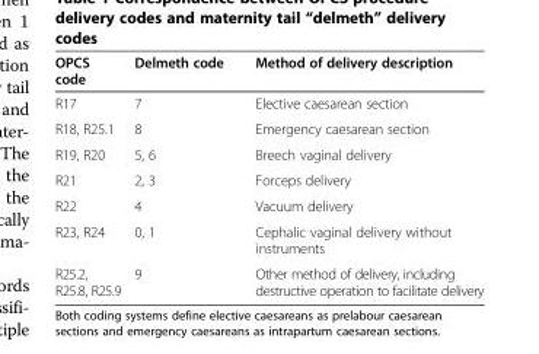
<table><thead><tr><td>OPCS code</td><td>Delmeth code</td><td>Method of delivery description</td></tr></thead><tbody><tr><td>R17</td><td>7</td><td>Elective caesarean section</td></tr><tr><td>R18, R25.1</td><td>8</td><td>Emergency caesarean section</td></tr><tr><td>R19, R20</td><td>5, 6</td><td>Breech vaginal delivery</td></tr><tr><td>R21</td><td>2, 3</td><td>Forceps delivery</td></tr><tr><td>R22</td><td>4</td><td>Vacuum delivery</td></tr><tr><td>R23, R24</td><td>0, 1</td><td>Cephalic vaginal delivery without instruments</td></tr><tr><td>R25.2, R25.8, R25.9</td><td>9</td><td>Other method of delivery, including destructive operation to facilitate delivery</td></tr></tbody></table>